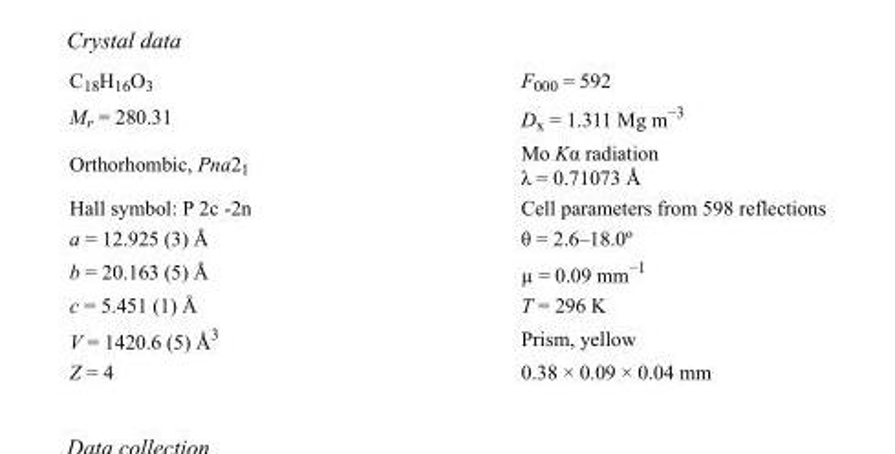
<table><tbody><tr><td>C<sub>18</sub>H<sub>16</sub>O<sub>3</sub></td><td>F000 = 592</td></tr><tr><td>M<sub>r</sub> = 280.31</td><td>D<sub>x</sub> = 1.311 Mg m<sup>−3</sup></td></tr><tr><td>Orthorhombic, Pna2<sub>1</sub></td><td>Mo Kα radiation λ = 0.71073 Å</td></tr><tr><td>Hall symbol: P 2c -2n</td><td>Cell parameters from 598 reflections</td></tr><tr><td>a = 12.925 (3) Å</td><td>θ = 2.6–18.0º</td></tr><tr><td>b = 20.163 (5) Å</td><td>µ = 0.09 mm<sup>−1</sup></td></tr><tr><td>c = 5.451 (1) Å</td><td>T = 296 K</td></tr><tr><td>V = 1420.6 (5) Å<sup>3</sup></td><td>Prism, yellow</td></tr><tr><td>Z = 4</td><td>0.38 × 0.09 × 0.04 mm</td></tr></tbody></table>